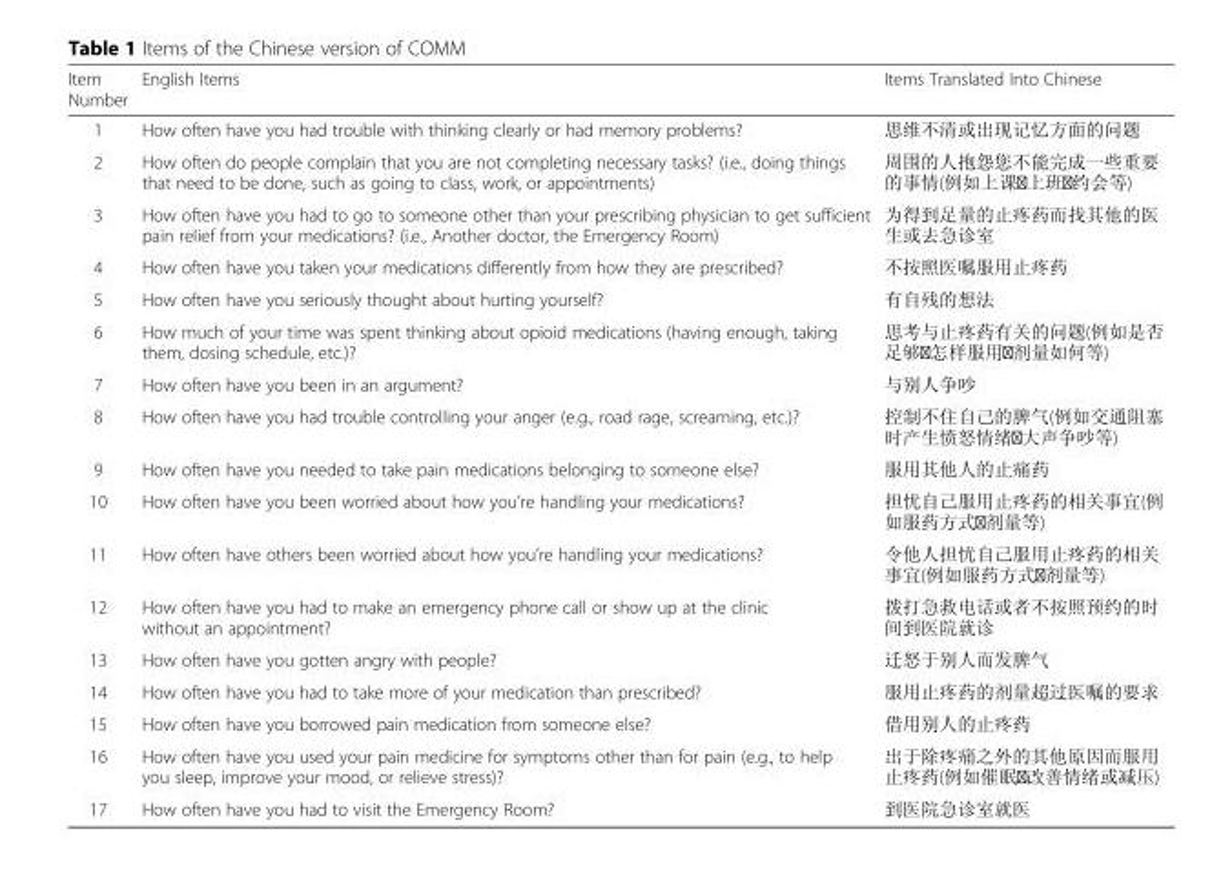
<table><thead><tr><td>Item Number</td><td>English Items</td><td>Items Translated Into Chinese</td></tr></thead><tbody><tr><td>1</td><td>How often have you had trouble with thinking clearly or had memory problems?</td><td>思维不清或出现记忆方面的问题</td></tr><tr><td>2</td><td>How often do people complain that you are not completing necessary tasks? (i.e., doing things that need to be done, such as going to class, work, or appointments)</td><td>周围的人抱怨您不能完成一些重要 的事情(例如上课、上班、约会等)</td></tr><tr><td>3</td><td>How often have you had to go to someone other than your prescribing physician to get sufficient pain relief from your medications? (i.e., Another doctor, the Emergency Room)</td><td>为得到足量的止疼药而找其他的医 生或去急诊室</td></tr><tr><td>4</td><td>How often have you taken your medications differently from how they are prescribed?</td><td>不按照医嘱服用止疼药</td></tr><tr><td>5</td><td>How often have you seriously thought about hurting yourself?</td><td>有自残的想法</td></tr><tr><td>6</td><td>How much of your time was spent thinking about opioid medications (having enough, taking them, dosing schedule, etc.)?</td><td>思考与止疼药有关的问题(例如是否 足够、怎样服用、剂量如何等)</td></tr><tr><td>7</td><td>How often have you been in an argument?</td><td>与别人争吵</td></tr><tr><td>8</td><td>How often have you had trouble controlling your anger (e.g., road rage, screaming, etc.)?</td><td>控制不住自己的脾气(例如交通阻塞 时产生愤怒情绪、大声争吵等)</td></tr><tr><td>9</td><td>How often have you needed to take pain medications belonging to someone else?</td><td>服用其他人的止痛药</td></tr><tr><td>10</td><td>How often have you been worried about how you’re handling your medications?</td><td>担忧自己服用止疼药的相关事宜(例 如服药方式、剂量等)</td></tr><tr><td>11</td><td>How often have others been worried about how you’re handling your medications?</td><td>令他人担忧自己服用止疼药的相关 事宜(例如服药方式、剂量等)</td></tr><tr><td>12</td><td>How often have you had to make an emergency phone call or show up at the clinic without an appointment?</td><td>拨打急救电话或者不按照预约的时 间到医院就诊</td></tr><tr><td>13</td><td>How often have you gotten angry with people?</td><td>迁怒于别人而发脾气</td></tr><tr><td>14</td><td>How often have you had to take more of your medication than prescribed?</td><td>服用止疼药的剂量超过医嘱的要求</td></tr><tr><td>15</td><td>How often have you borrowed pain medication from someone else?</td><td>借用别人的止疼药</td></tr><tr><td>16</td><td>How often have you used your pain medicine for symptoms other than for pain (e.g., to help you sleep, improve your mood, or relieve stress)?</td><td>出于除疼痛之外的其他原因而服用 止疼药(例如催眠、改善情绪或减压)</td></tr><tr><td>17</td><td>How often have you had to visit the Emergency Room?</td><td>到医院急诊室就医</td></tr></tbody></table>